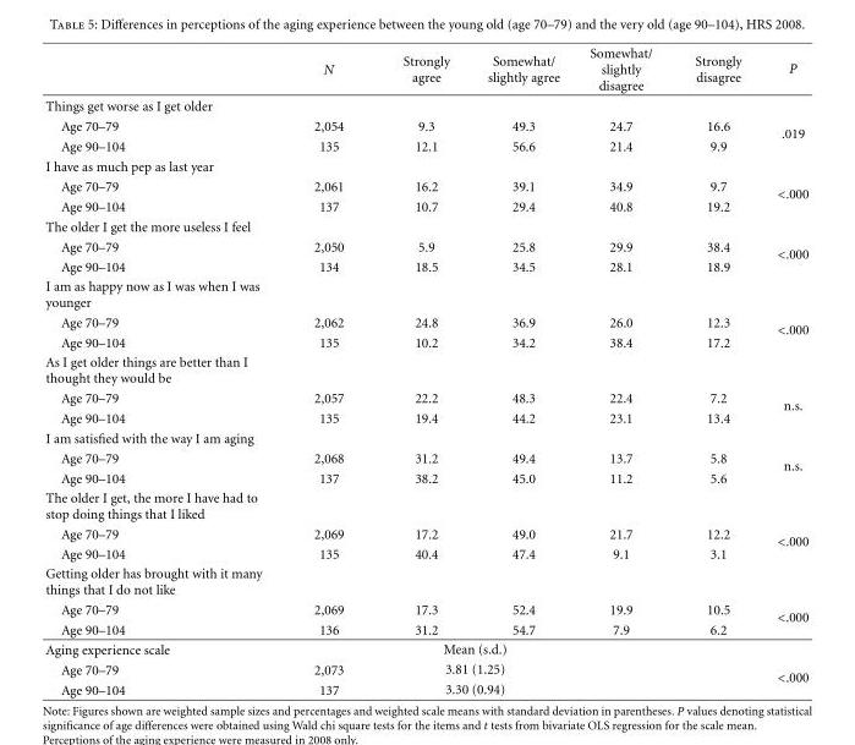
<table><thead><tr><td></td><td>N</td><td>Strongly agree</td><td>Somewhat/ slightly agree</td><td>Somewhat/ slightly disagree</td><td>Strongly disagree</td><td>P</td></tr></thead><tbody><tr><td colspan="7">Things get worse as I get older</td></tr><tr><td>Age 70–79</td><td>2,054</td><td>9.3</td><td>49.3</td><td>24.7</td><td>16.6</td><td rowspan="2">.019</td></tr><tr><td>Age 90–104</td><td>135</td><td>12.1</td><td>56.6</td><td>21.4</td><td>9.9</td></tr><tr><td colspan="7">I have as much pep as last year</td></tr><tr><td>Age 70–79</td><td>2,061</td><td>16.2</td><td>39.1</td><td>34.9</td><td>9.7</td><td rowspan="2">&lt;.000</td></tr><tr><td>Age 90–104</td><td>137</td><td>10.7</td><td>29.4</td><td>40.8</td><td>19.2</td></tr><tr><td colspan="7">The older I get the more useless I feel</td></tr><tr><td>Age 70–79</td><td>2,050</td><td>5.9</td><td>25.8</td><td>29.9</td><td>38.4</td><td rowspan="2">&lt;.000</td></tr><tr><td>Age 90–104</td><td>134</td><td>18.5</td><td>34.5</td><td>28.1</td><td>18.9</td></tr><tr><td colspan="7">I am as happy now as I was when I was younger</td></tr><tr><td>Age 70–79</td><td>2,062</td><td>24.8</td><td>36.9</td><td>26.0</td><td>12.3</td><td rowspan="2">&lt;.000</td></tr><tr><td>Age 90–104</td><td>135</td><td>10.2</td><td>34.2</td><td>38.4</td><td>17.2</td></tr><tr><td colspan="7">As I get older things are better than I thought they would be</td></tr><tr><td>Age 70–79</td><td>2,057</td><td>22.2</td><td>48.3</td><td>22.4</td><td>7.2</td><td rowspan="2">n.s.</td></tr><tr><td>Age 90–104</td><td>135</td><td>19.4</td><td>44.2</td><td>23.1</td><td>13.4</td></tr><tr><td colspan="7">I am satisfied with the way I am aging</td></tr><tr><td>Age 70–79</td><td>2,068</td><td>31.2</td><td>49.4</td><td>13.7</td><td>5.8</td><td rowspan="2">n.s.</td></tr><tr><td>Age 90–104</td><td>137</td><td>38.2</td><td>45.0</td><td>11.2</td><td>5.6</td></tr><tr><td colspan="7">The older I get, the more I have had to stop doing things that I liked</td></tr><tr><td>Age 70–79</td><td>2,069</td><td>17.2</td><td>49.0</td><td>21.7</td><td>12.2</td><td rowspan="2">&lt;.000</td></tr><tr><td>Age 90–104</td><td>135</td><td>40.4</td><td>47.4</td><td>9.1</td><td>3.1</td></tr><tr><td colspan="7">Getting older has brought with it many things that I do not like</td></tr><tr><td>Age 70–79</td><td>2,069</td><td>17.3</td><td>52.4</td><td>19.9</td><td>10.5</td><td rowspan="2">&lt;.000</td></tr><tr><td>Age 90–104</td><td>136</td><td>31.2</td><td>54.7</td><td>7.9</td><td>6.2</td></tr><tr><td>Aging experience scale</td><td></td><td colspan="2">Mean (s.d.)</td><td></td><td></td><td></td></tr><tr><td>Age 70–79</td><td>2,073</td><td colspan="2">3.81 (1.25)</td><td></td><td></td><td rowspan="2">&lt;.000</td></tr><tr><td>Age 90–104</td><td>137</td><td colspan="2">3.30 (0.94)</td><td></td><td></td></tr></tbody></table>